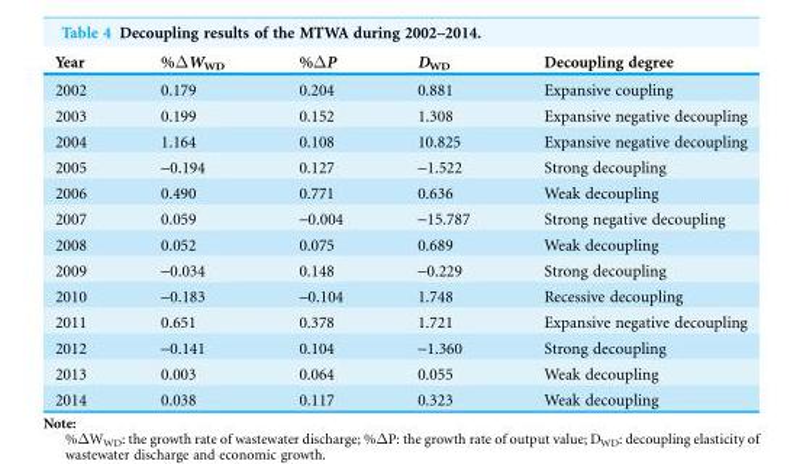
<table><thead><tr><td>Year</td><td>%ΔW<sub>WD</sub></td><td>%ΔP</td><td>D<sub>WD</sub></td><td>Decoupling degree</td></tr></thead><tbody><tr><td>2002</td><td>0.179</td><td>0.204</td><td>0.881</td><td>Expansive coupling</td></tr><tr><td>2003</td><td>0.199</td><td>0.152</td><td>1.308</td><td>Expansive negative decoupling</td></tr><tr><td>2004</td><td>1.164</td><td>0.108</td><td>10.825</td><td>Expansive negative decoupling</td></tr><tr><td>2005</td><td>-0.194</td><td>0.127</td><td>-1.522</td><td>Strong decoupling</td></tr><tr><td>2006</td><td>0.490</td><td>0.771</td><td>0.636</td><td>Weak decoupling</td></tr><tr><td>2007</td><td>0.059</td><td>-0.004</td><td>-15.787</td><td>Strong negative decoupling</td></tr><tr><td>2008</td><td>0.052</td><td>0.075</td><td>0.689</td><td>Weak decoupling</td></tr><tr><td>2009</td><td>-0.034</td><td>0.148</td><td>-0.229</td><td>Strong decoupling</td></tr><tr><td>2010</td><td>-0.183</td><td>-0.104</td><td>1.748</td><td>Recessive decoupling</td></tr><tr><td>2011</td><td>0.651</td><td>0.378</td><td>1.721</td><td>Expansive negative decoupling</td></tr><tr><td>2012</td><td>-0.141</td><td>0.104</td><td>-1.360</td><td>Strong decoupling</td></tr><tr><td>2013</td><td>0.003</td><td>0.064</td><td>0.055</td><td>Weak decoupling</td></tr><tr><td>2014</td><td>0.038</td><td>0.117</td><td>0.323</td><td>Weak decoupling</td></tr></tbody></table>